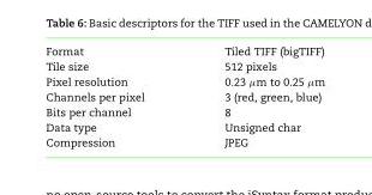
<table><tbody><tr><td>Format</td><td>Tiled TIFF (bigTIFF)</td></tr><tr><td>Tile size</td><td>512 pixels</td></tr><tr><td>Pixel resolution</td><td>0.23 μm to 0.25 μm</td></tr><tr><td>Channels per pixel</td><td>3 (red, green, blue)</td></tr><tr><td>Bits per channel</td><td>8</td></tr><tr><td>Data type</td><td>Unsigned char</td></tr><tr><td>Compression</td><td>JPEG</td></tr></tbody></table>